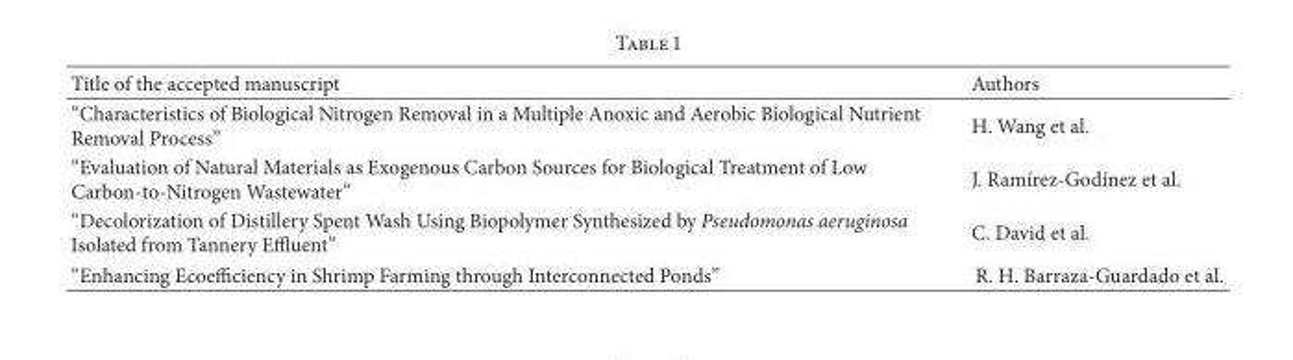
<table><thead><tr><td>Title of the accepted manuscript</td><td>Authors</td></tr></thead><tbody><tr><td>“Characteristics of Biological Nitrogen Removal in a Multiple Anoxic and Aerobic Biological Nutrient Removal Process”</td><td>H. Wang et al.</td></tr><tr><td>“Evaluation of Natural Materials as Exogenous Carbon Sources for Biological Treatment of Low Carbon-to-Nitrogen Wastewater”</td><td>J. Ram´ırez-God´ınez et al.</td></tr><tr><td>“Decolorization of Distillery Spent Wash Using Biopolymer Synthesized by Pseudomonas aeruginosa Isolated from Tannery Effluent”</td><td>C. David et al.</td></tr><tr><td>“Enhancing Ecoefficiency in Shrimp Farming through Interconnected Ponds”</td><td>R. H. Barraza-Guardado et al.</td></tr></tbody></table>